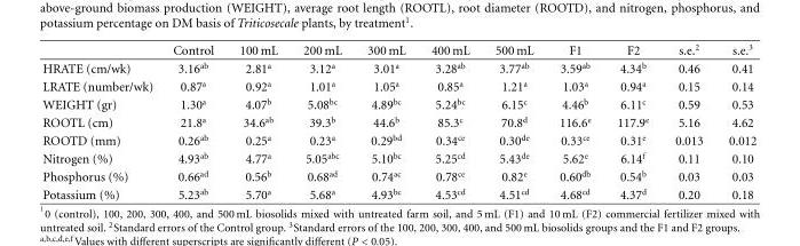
<table><thead><tr><td></td><td>Control</td><td>100 mL</td><td>200 mL</td><td>300 mL</td><td>400 mL</td><td>500 mL</td><td>F1</td><td>F2</td><td>s.e.<sup>2</sup></td><td>s.e.<sup>3</sup></td></tr></thead><tbody><tr><td>HRATE (cm/wk)</td><td>3.16<sup>ab</sup></td><td>2.81<sup>a</sup></td><td>3.12<sup>a</sup></td><td>3.01<sup>a</sup></td><td>3.28<sup>ab</sup></td><td>3.77<sup>ab</sup></td><td>3.59<sup>ab</sup></td><td>4.34<sup>b</sup></td><td>0.46</td><td>0.41</td></tr><tr><td>LRATE (number/wk)</td><td>0.87<sup>a</sup></td><td>0.92<sup>a</sup></td><td>1.01<sup>a</sup></td><td>1.05<sup>a</sup></td><td>0.85<sup>a</sup></td><td>1.21<sup>a</sup></td><td>1.03<sup>a</sup></td><td>0.94<sup>a</sup></td><td>0.15</td><td>0.14</td></tr><tr><td>WEIGHT (gr)</td><td>1.30<sup>a</sup></td><td>4.07<sup>b</sup></td><td>5.08<sup>bc</sup></td><td>4.89<sup>bc</sup></td><td>5.24<sup>bc</sup></td><td>6.15<sup>c</sup></td><td>4.46<sup>b</sup></td><td>6.11<sup>c</sup></td><td>0.59</td><td>0.53</td></tr><tr><td>ROOTL (cm)</td><td>21.8<sup>a</sup></td><td>34.6<sup>ab</sup></td><td>39.3<sup>b</sup></td><td>44.6<sup>b</sup></td><td>85.3<sup>c</sup></td><td>70.8<sup>d</sup></td><td>116.6<sup>e</sup></td><td>117.9<sup>e</sup></td><td>5.16</td><td>4.62</td></tr><tr><td>ROOTD (mm)</td><td>0.26<sup>ab</sup></td><td>0.25<sup>a</sup></td><td>0.23<sup>a</sup></td><td>0.29<sup>bd</sup></td><td>0.34<sup>ce</sup></td><td>0.30<sup>de</sup></td><td>0.33<sup>ce</sup></td><td>0.31<sup>e</sup></td><td>0.013</td><td>0.012</td></tr><tr><td>Nitrogen (%)</td><td>4.93<sup>ab</sup></td><td>4.77<sup>a</sup></td><td>5.05<sup>abc</sup></td><td>5.10<sup>bc</sup></td><td>5.25<sup>cd</sup></td><td>5.43<sup>de</sup></td><td>5.62<sup>e</sup></td><td>6.14<sup>f</sup></td><td>0.11</td><td>0.10</td></tr><tr><td>Phosphorus (%)</td><td>0.66<sup>ad</sup></td><td>0.56<sup>b</sup></td><td>0.68<sup>ad</sup></td><td>0.74<sup>ac</sup></td><td>0.78<sup>ce</sup></td><td>0.82<sup>e</sup></td><td>0.60<sup>db</sup></td><td>0.54<sup>b</sup></td><td>0.03</td><td>0.03</td></tr><tr><td>Potassium (%)</td><td>5.23<sup>ab</sup></td><td>5.70<sup>a</sup></td><td>5.68<sup>a</sup></td><td>4.93<sup>bc</sup></td><td>4.53<sup>cd</sup></td><td>4.51<sup>cd</sup></td><td>4.68<sup>cd</sup></td><td>4.37<sup>d</sup></td><td>0.20</td><td>0.18</td></tr></tbody></table>